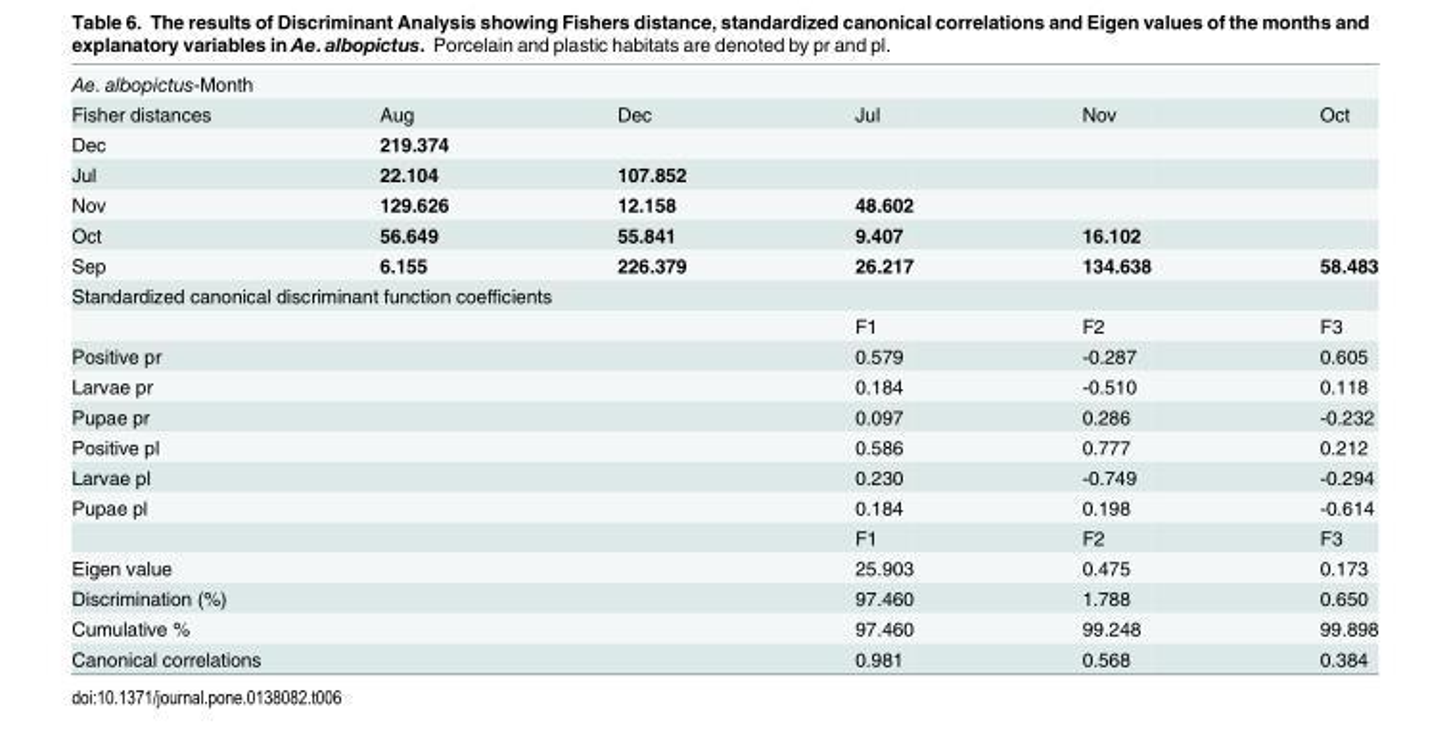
<table><tbody><tr><td colspan="6">Ae. albopictus-Month</td></tr><tr><td>Fisher distances</td><td>Aug</td><td>Dec</td><td>Jul</td><td>Nov</td><td>Oct</td></tr><tr><td>Dec</td><td>219.374</td><td></td><td></td><td></td><td></td></tr><tr><td>Jul</td><td>22.104</td><td>107.852</td><td></td><td></td><td></td></tr><tr><td>Nov</td><td>129.626</td><td>12.158</td><td>48.602</td><td></td><td></td></tr><tr><td>Oct</td><td>56.649</td><td>55.841</td><td>9.407</td><td>16.102</td><td></td></tr><tr><td>Sep</td><td>6.155</td><td>226.379</td><td>26.217</td><td>134.638</td><td>58.483</td></tr><tr><td colspan="6">Standardized canonical discriminant function coefficients</td></tr><tr><td colspan="3"></td><td>F1</td><td>F2</td><td>F3</td></tr><tr><td colspan="3">Positive pr</td><td>0.579</td><td>-0.287</td><td>0.605</td></tr><tr><td colspan="3">Larvae pr</td><td>0.184</td><td>-0.510</td><td>0.118</td></tr><tr><td colspan="3">Pupae pr</td><td>0.097</td><td>0.286</td><td>-0.232</td></tr><tr><td colspan="3">Positive pl</td><td>0.586</td><td>0.777</td><td>0.212</td></tr><tr><td colspan="3">Larvae pl</td><td>0.230</td><td>-0.749</td><td>-0.294</td></tr><tr><td rowspan="2" colspan="3">Pupae pl</td><td>0.184</td><td>0.198</td><td>-0.614</td></tr><tr><td>F1</td><td>F2</td><td>F3</td></tr><tr><td colspan="3">Eigen value</td><td>25.903</td><td>0.475</td><td>0.173</td></tr><tr><td colspan="3">Discrimination (%)</td><td>97.460</td><td>1.788</td><td>0.650</td></tr><tr><td colspan="3">Cumulative %</td><td>97.460</td><td>99.248</td><td>99.898</td></tr><tr><td colspan="3">Canonical correlations</td><td>0.981</td><td>0.568</td><td>0.384</td></tr></tbody></table>